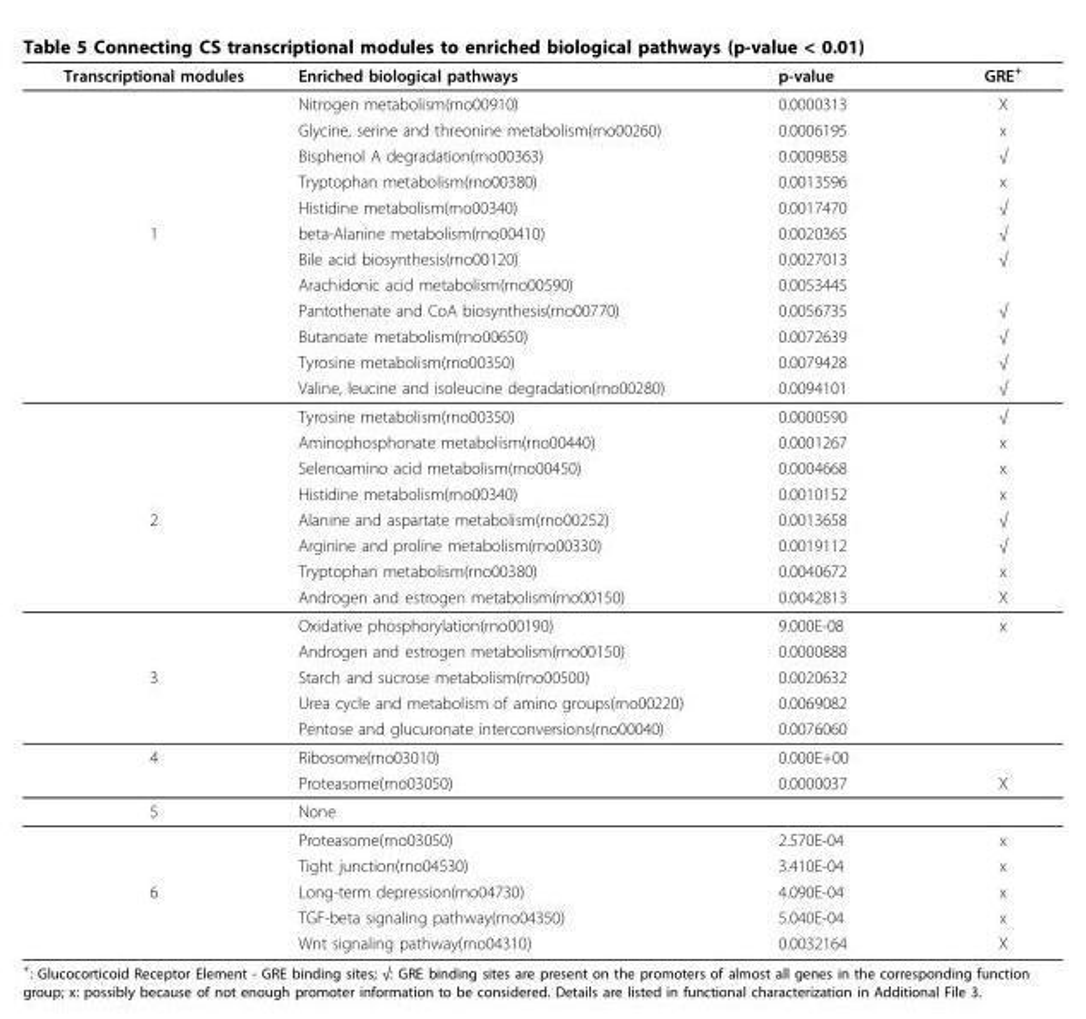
<table><thead><tr><td>Transcriptional modules</td><td>Enriched biological pathways</td><td>p-value</td><td>GRE<sup>+</sup></td></tr></thead><tbody><tr><td rowspan="12">1</td><td>Nitrogen metabolism(rno00910)</td><td>0.0000313</td><td>X</td></tr><tr><td>Glycine, serine and threonine metabolism(rno00260)</td><td>0.0006195</td><td>x</td></tr><tr><td>Bisphenol A degradation(rno00363)</td><td>0.0009858</td><td>√</td></tr><tr><td>Tryptophan metabolism(rno00380)</td><td>0.0013596</td><td>x</td></tr><tr><td>Histidine metabolism(rno00340)</td><td>0.0017470</td><td>√</td></tr><tr><td>beta-Alanine metabolism(rno00410)</td><td>0.0020365</td><td>√</td></tr><tr><td>Bile acid biosynthesis(rno00120)</td><td>0.0027013</td><td>√</td></tr><tr><td>Arachidonic acid metabolism(rno00590)</td><td>0.0053445</td><td></td></tr><tr><td>Pantothenate and CoA biosynthesis(rno00770)</td><td>0.0056735</td><td>√</td></tr><tr><td>Butanoate metabolism(rno00650)</td><td>0.0072639</td><td>√</td></tr><tr><td>Tyrosine metabolism(rno00350)</td><td>0.0079428</td><td>√</td></tr><tr><td>Valine, leucine and isoleucine degradation(rno00280)</td><td>0.0094101</td><td>√</td></tr><tr><td rowspan="8">2</td><td>Tyrosine metabolism(rno00350)</td><td>0.0000590</td><td>√</td></tr><tr><td>Aminophosphonate metabolism(rno00440)</td><td>0.0001267</td><td>x</td></tr><tr><td>Selenoamino acid metabolism(rno00450)</td><td>0.0004668</td><td>x</td></tr><tr><td>Histidine metabolism(rno00340)</td><td>0.0010152</td><td>x</td></tr><tr><td>Alanine and aspartate metabolism(rno00252)</td><td>0.0013658</td><td>√</td></tr><tr><td>Arginine and proline metabolism(rno00330)</td><td>0.0019112</td><td>√</td></tr><tr><td>Tryptophan metabolism(rno00380)</td><td>0.0040672</td><td>x</td></tr><tr><td>Androgen and estrogen metabolism(rno00150)</td><td>0.0042813</td><td>X</td></tr><tr><td rowspan="5">3</td><td>Oxidative phosphorylation(rno00190)</td><td>9.000E-08</td><td>x</td></tr><tr><td>Androgen and estrogen metabolism(rno00150)</td><td>0.0000888</td><td></td></tr><tr><td>Starch and sucrose metabolism(rno00500)</td><td>0.0020632</td><td></td></tr><tr><td>Urea cycle and metabolism of amino groups(rno00220)</td><td>0.0069082</td><td></td></tr><tr><td>Pentose and glucuronate interconversions(rno00040)</td><td>0.0076060</td><td></td></tr><tr><td rowspan="2">4</td><td>Ribosome(rno03010)</td><td>0.000E+00</td><td></td></tr><tr><td>Proteasome(rno03050)</td><td>0.0000037</td><td>X</td></tr><tr><td>5</td><td>None</td><td></td><td></td></tr><tr><td rowspan="5">6</td><td>Proteasome(rno03050)</td><td>2.570E-04</td><td>x</td></tr><tr><td>Tight junction(rno04530)</td><td>3.410E-04</td><td>x</td></tr><tr><td>Long-term depression(rno04730)</td><td>4.090E-04</td><td>x</td></tr><tr><td>TGF-beta signaling pathway(rno04350)</td><td>5.040E-04</td><td>x</td></tr><tr><td>Wnt signaling pathway(rno04310)</td><td>0.0032164</td><td>X</td></tr></tbody></table>